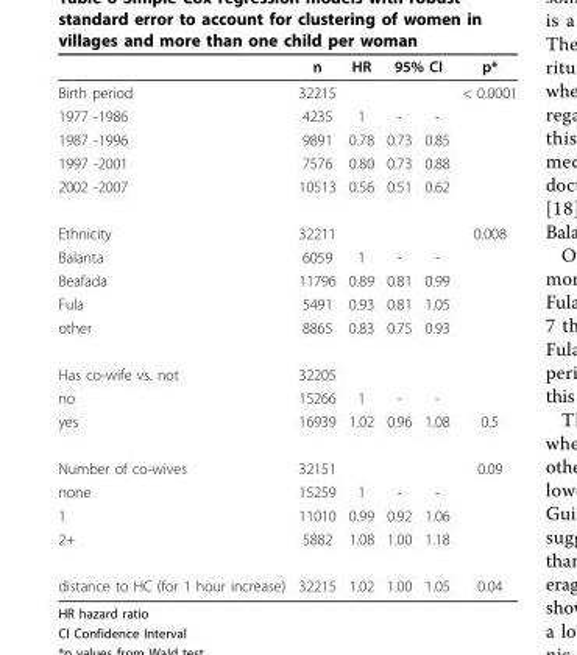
<table><thead><tr><td rowspan="2">Birth period</td><td rowspan="2">n 32215</td><td rowspan="2">HR</td><td colspan="2">95% CI</td><td rowspan="2">p* &lt; 0.0001</td></tr><tr><td></td><td></td></tr></thead><tbody><tr><td>1977 -1986</td><td>4235</td><td>1</td><td>-</td><td>-</td><td></td></tr><tr><td>1987 -1996</td><td>9891</td><td>0.78</td><td>0.73</td><td>0.85</td><td></td></tr><tr><td>1997 -2001</td><td>7576</td><td>0.80</td><td>0.73</td><td>0.88</td><td></td></tr><tr><td>2002 -2007</td><td>10513</td><td>0.56</td><td>0.51</td><td>0.62</td><td></td></tr><tr><td>Ethnicity</td><td>32211</td><td></td><td></td><td></td><td>0.008</td></tr><tr><td>Balanta</td><td>6059</td><td>1</td><td>-</td><td>-</td><td></td></tr><tr><td>Beafada</td><td>11796</td><td>0.89</td><td>0.81</td><td>0.99</td><td></td></tr><tr><td>Fula</td><td>5491</td><td>0.93</td><td>0.81</td><td>1.05</td><td></td></tr><tr><td>other</td><td>8865</td><td>0.83</td><td>0.75</td><td>0.93</td><td></td></tr><tr><td>Has co-wife vs. not</td><td>32205</td><td></td><td></td><td></td><td></td></tr><tr><td>no</td><td>15266</td><td>1</td><td>-</td><td>-</td><td></td></tr><tr><td>yes</td><td>16939</td><td>1.02</td><td>0.96</td><td>1.08</td><td>0.5</td></tr><tr><td>Number of co-wives</td><td>32151</td><td></td><td></td><td></td><td>0.09</td></tr><tr><td>none</td><td>15259</td><td>1</td><td>-</td><td>-</td><td></td></tr><tr><td>1</td><td>11010</td><td>0.99</td><td>0.92</td><td>1.06</td><td></td></tr><tr><td>2+</td><td>5882</td><td>1.08</td><td>1.00</td><td>1.18</td><td></td></tr><tr><td>distance to HC (for 1 hour increase)</td><td>32215</td><td>1.02</td><td>1.00</td><td>1.05</td><td>0.04</td></tr></tbody></table>